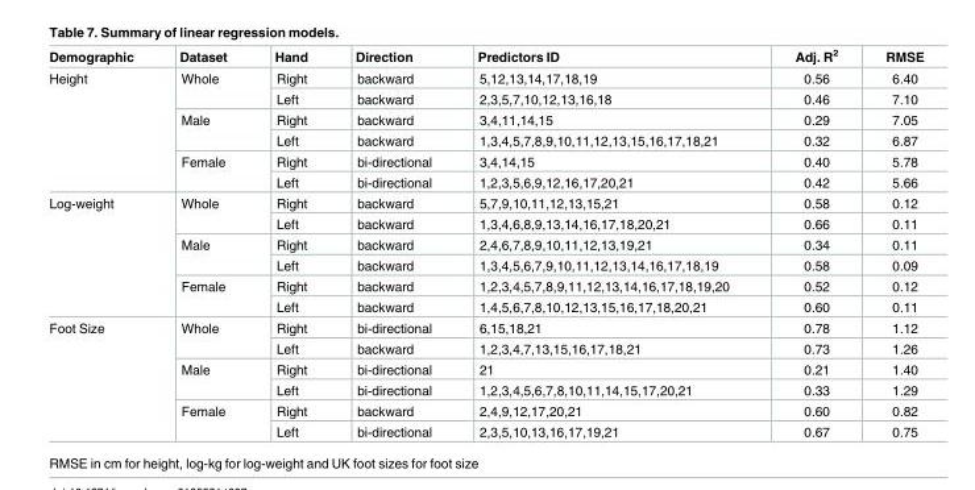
<table><thead><tr><td>Demographic</td><td>Dataset</td><td>Hand</td><td>Direction</td><td>Predictors ID</td><td>Adj. R<sup>2</sup></td><td>RMSE</td></tr></thead><tbody><tr><td rowspan="6">Height</td><td rowspan="2">Whole</td><td>Right</td><td>backward</td><td>5,12,13,14,17,18,19</td><td>0.56</td><td>6.40</td></tr><tr><td>Left</td><td>backward</td><td>2,3,5,7,10,12,13,16,18</td><td>0.46</td><td>7.10</td></tr><tr><td rowspan="2">Male</td><td>Right</td><td>backward</td><td>3,4,11,14,15</td><td>0.29</td><td>7.05</td></tr><tr><td>Left</td><td>backward</td><td>1,3,4,5,7,8,9,10,11,12,13,15,16,17,18,21</td><td>0.32</td><td>6.87</td></tr><tr><td rowspan="2">Female</td><td>Right</td><td>bi-directional</td><td>3,4,14,15</td><td>0.40</td><td>5.78</td></tr><tr><td>Left</td><td>bi-directional</td><td>1,2,3,5,6,9,12,16,17,20,21</td><td>0.42</td><td>5.66</td></tr><tr><td rowspan="6">Log-weight</td><td rowspan="2">Whole</td><td>Right</td><td>backward</td><td>5,7,9,10,11,12,13,15,21</td><td>0.58</td><td>0.12</td></tr><tr><td>Left</td><td>backward</td><td>1,3,4,6,8,9,13,14,16,17,18,20,21</td><td>0.66</td><td>0.11</td></tr><tr><td rowspan="2">Male</td><td>Right</td><td>backward</td><td>2,4,6,7,8,9,10,11,12,13,19,21</td><td>0.34</td><td>0.11</td></tr><tr><td>Left</td><td>backward</td><td>1,3,4,5,6,7,9,10,11,12,13,14,16,17,18,19</td><td>0.58</td><td>0.09</td></tr><tr><td rowspan="2">Female</td><td>Right</td><td>backward</td><td>1,2,3,4,5,7,8,9,11,12,13,14,16,17,18,19,20</td><td>0.52</td><td>0.12</td></tr><tr><td>Left</td><td>backward</td><td>1,4,5,6,7,8,10,12,13,15,16,17,18,20,21</td><td>0.60</td><td>0.11</td></tr><tr><td rowspan="6">Foot Size</td><td rowspan="2">Whole</td><td>Right</td><td>bi-directional</td><td>6,15,18,21</td><td>0.78</td><td>1.12</td></tr><tr><td>Left</td><td>backward</td><td>1,2,3,4,7,13,15,16,17,18,21</td><td>0.73</td><td>1.26</td></tr><tr><td rowspan="2">Male</td><td>Right</td><td>bi-directional</td><td>21</td><td>0.21</td><td>1.40</td></tr><tr><td>Left</td><td>bi-directional</td><td>1,2,3,4,5,6,7,8,10,11,14,15,17,20,21</td><td>0.33</td><td>1.29</td></tr><tr><td rowspan="2">Female</td><td>Right</td><td>backward</td><td>2,4,9,12,17,20,21</td><td>0.60</td><td>0.82</td></tr><tr><td>Left</td><td>bi-directional</td><td>2,3,5,10,13,16,17,19,21</td><td>0.67</td><td>0.75</td></tr></tbody></table>